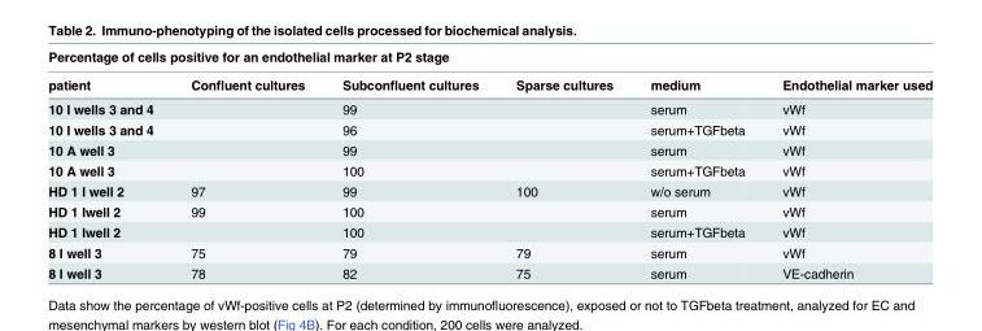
<table><thead><tr><td colspan="6">Percentage of cells positive for an endothelial marker at P2 stage</td></tr><tr><td>patient</td><td>Confluent cultures</td><td>Subconfluent cultures</td><td>Sparse cultures</td><td>medium</td><td>Endothelial marker used</td></tr></thead><tbody><tr><td>10 I wells 3 and 4</td><td></td><td>99</td><td></td><td>serum</td><td>vWf</td></tr><tr><td>10 I wells 3 and 4</td><td></td><td>96</td><td></td><td>serum+TGFbeta</td><td>vWf</td></tr><tr><td>10 A well 3</td><td></td><td>99</td><td></td><td>serum</td><td>vWf</td></tr><tr><td>10 A well 3</td><td></td><td>100</td><td></td><td>serum+TGFbeta</td><td>vWf</td></tr><tr><td>HD 1 I well 2</td><td>97</td><td>99</td><td>100</td><td>w/o serum</td><td>vWf</td></tr><tr><td>HD 1 Iwell 2</td><td>99</td><td>100</td><td></td><td>serum</td><td>vWf</td></tr><tr><td>HD 1 Iwell 2</td><td></td><td>100</td><td></td><td>serum+TGFbeta</td><td>vWf</td></tr><tr><td>8 I well 3</td><td>75</td><td>79</td><td>79</td><td>serum</td><td>vWf</td></tr><tr><td>8 I well 3</td><td>78</td><td>82</td><td>75</td><td>serum</td><td>VE-cadherin</td></tr></tbody></table>